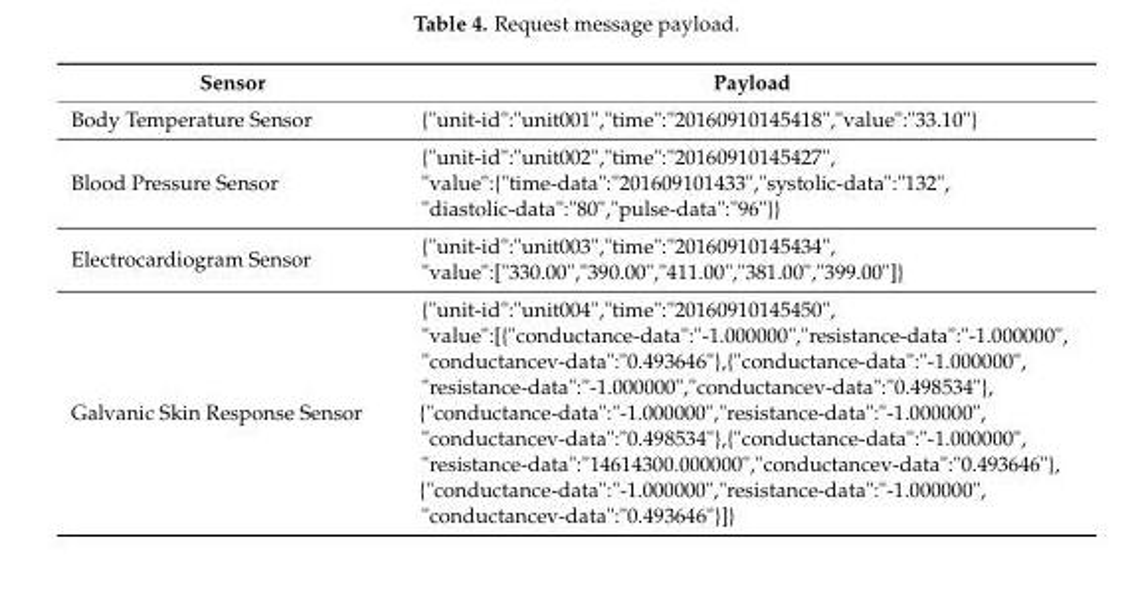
<table><thead><tr><td>Sensor</td><td>Payload</td></tr></thead><tbody><tr><td>Body Temperature Sensor</td><td>{&quot;unit-id&quot;:&quot;unit001&quot;,&quot;time&quot;:&quot;20160910145418&quot;,&quot;value&quot;:&quot;33.10&quot;}</td></tr><tr><td>Blood Pressure Sensor</td><td>{&quot;unit-id&quot;:&quot;unit002&quot;,&quot;time&quot;:&quot;20160910145427&quot;, &quot;value&quot;:{&quot;time-data&quot;:&quot;201609101433&quot;,&quot;systolic-data&quot;:&quot;132&quot;, &quot;diastolic-data&quot;:&quot;80&quot;,&quot;pulse-data&quot;:&quot;96&quot;}}</td></tr><tr><td>Electrocardiogram Sensor</td><td>{&quot;unit-id&quot;:&quot;unit003&quot;,&quot;time&quot;:&quot;20160910145434&quot;, &quot;value&quot;:[&quot;330.00&quot;,&quot;390.00&quot;,&quot;411.00&quot;,&quot;381.00&quot;,&quot;399.00&quot;]}</td></tr><tr><td>Galvanic Skin Response Sensor</td><td>{&quot;unit-id&quot;:&quot;unit004&quot;,&quot;time&quot;:&quot;20160910145450&quot;, &quot;value&quot;:[{&quot;conductance-data&quot;:&quot;-1.000000&quot;,&quot;resistance-data&quot;:&quot;-1.000000&quot;, &quot;conductancev-data&quot;:&quot;0.493646&quot;},{&quot;conductance-data&quot;:&quot;-1.000000&quot;, &quot;resistance-data&quot;:&quot;-1.000000&quot;,&quot;conductancev-data&quot;:&quot;0.498534&quot;}, {&quot;conductance-data&quot;:&quot;-1.000000&quot;,&quot;resistance-data&quot;:&quot;-1.000000&quot;, &quot;conductancev-data&quot;:&quot;0.498534&quot;},{&quot;conductance-data&quot;:&quot;-1.000000&quot;, &quot;resistance-data&quot;:&quot;14614300.000000&quot;,&quot;conductancev-data&quot;:&quot;0.493646&quot;}, {&quot;conductance-data&quot;:&quot;-1.000000&quot;,&quot;resistance-data&quot;:&quot;-1.000000&quot;, &quot;conductancev-data&quot;:&quot;0.493646&quot;}]}</td></tr></tbody></table>